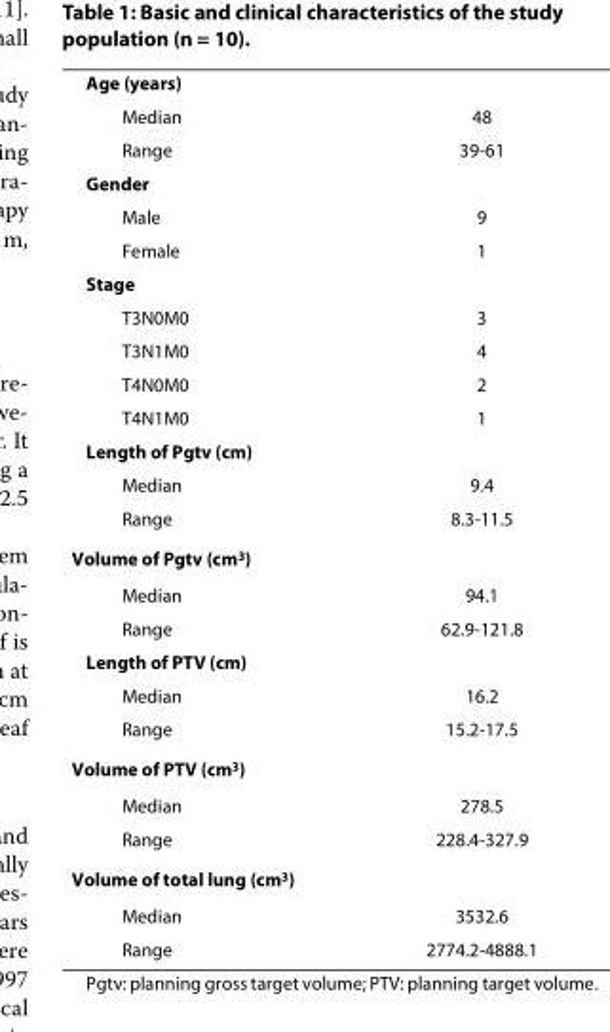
<table><tbody><tr><td colspan="2">Age (years)</td></tr><tr><td>Median</td><td>48</td></tr><tr><td>Range</td><td>39-61</td></tr><tr><td colspan="2">Gender</td></tr><tr><td>Male</td><td>9</td></tr><tr><td>Female</td><td>1</td></tr><tr><td colspan="2">Stage</td></tr><tr><td>T3N0M0</td><td>3</td></tr><tr><td>T3N1M0</td><td>4</td></tr><tr><td>T4N0M0</td><td>2</td></tr><tr><td>T4N1M0</td><td>1</td></tr><tr><td colspan="2">Length of Pgtv (cm)</td></tr><tr><td>Median</td><td>9.4</td></tr><tr><td>Range</td><td>8.3-11.5</td></tr><tr><td colspan="2">Volume of Pgtv (cm<sup>3</sup>)</td></tr><tr><td>Median</td><td>94.1</td></tr><tr><td>Range</td><td>62.9-121.8</td></tr><tr><td colspan="2">Length of PTV (cm)</td></tr><tr><td>Median</td><td>16.2</td></tr><tr><td>Range</td><td>15.2-17.5</td></tr><tr><td colspan="2">Volume of PTV (cm<sup>3</sup>)</td></tr><tr><td>Median</td><td>278.5</td></tr><tr><td>Range</td><td>228.4-327.9</td></tr><tr><td colspan="2">Volume of total lung (cm<sup>3</sup>)</td></tr><tr><td>Median</td><td>3532.6</td></tr><tr><td>Range</td><td>2774.2-4888.1</td></tr></tbody></table>